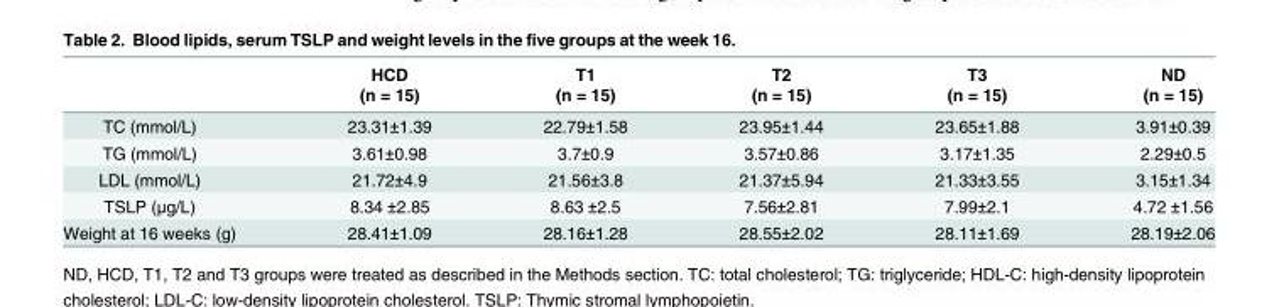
<table><thead><tr><td rowspan="2"></td><td rowspan="2">HCD (n = 15)</td><td rowspan="2">T1 (n = 15)</td><td rowspan="2">T2 (n = 15)</td><td rowspan="2">T3 (n = 15)</td><td rowspan="2">ND (n = 15)</td></tr><tr></tr></thead><tbody><tr><td>TC (mmol/L)</td><td>23.31±1.39</td><td>22.79±1.58</td><td>23.95±1.44</td><td>23.65±1.88</td><td>3.91±0.39</td></tr><tr><td>TG (mmol/L)</td><td>3.61±0.98</td><td>3.7±0.9</td><td>3.57±0.86</td><td>3.17±1.35</td><td>2.29±0.5</td></tr><tr><td>LDL (mmol/L)</td><td>21.72±4.9</td><td>21.56±3.8</td><td>21.37±5.94</td><td>21.33±3.55</td><td>3.15±1.34</td></tr><tr><td>TSLP (μg/L)</td><td>8.34 ±2.85</td><td>8.63 ±2.5</td><td>7.56±2.81</td><td>7.99±2.1</td><td>4.72 ±1.56</td></tr><tr><td>Weight at 16 weeks (g)</td><td>28.41±1.09</td><td>28.16±1.28</td><td>28.55±2.02</td><td>28.11±1.69</td><td>28.19±2.06</td></tr></tbody></table>